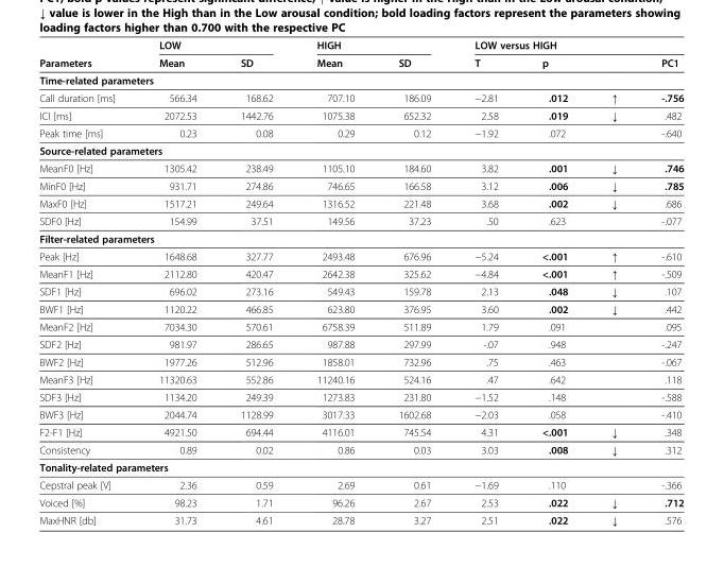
<table><thead><tr><td rowspan="2">Parameters</td><td colspan="2">LOW</td><td colspan="2">HIGH</td><td colspan="4">LOW versus HIGH</td></tr><tr><td>Mean</td><td>SD</td><td>Mean</td><td>SD</td><td>T</td><td>p</td><td></td><td>PC1</td></tr></thead><tbody><tr><td colspan="9">Time-related parameters</td></tr><tr><td>Call duration [ms]</td><td>566.34</td><td>168.62</td><td>707.10</td><td>186.09</td><td>−2.81</td><td>.012</td><td>↑</td><td>-.756</td></tr><tr><td>ICI [ms]</td><td>2072.53</td><td>1442.76</td><td>1075.38</td><td>652.32</td><td>2.58</td><td>.019</td><td>↓</td><td>.482</td></tr><tr><td>Peak time [ms]</td><td>0.23</td><td>0.08</td><td>0.29</td><td>0.12</td><td>−1.92</td><td>.072</td><td></td><td>-.640</td></tr><tr><td colspan="9">Source-related parameters</td></tr><tr><td>MeanF0 [Hz]</td><td>1305.42</td><td>238.49</td><td>1105.10</td><td>184.60</td><td>3.82</td><td>.001</td><td>↓</td><td>.746</td></tr><tr><td>MinF0 [Hz]</td><td>931.71</td><td>274.86</td><td>746.65</td><td>166.58</td><td>3.12</td><td>.006</td><td>↓</td><td>.785</td></tr><tr><td>MaxF0 [Hz]</td><td>1517.21</td><td>249.64</td><td>1316.52</td><td>221.48</td><td>3.68</td><td>.002</td><td>↓</td><td>.686</td></tr><tr><td>SDF0 [Hz]</td><td>154.99</td><td>37.51</td><td>149.56</td><td>37.23</td><td>.50</td><td>.623</td><td></td><td>-.077</td></tr><tr><td colspan="9">Filter-related parameters</td></tr><tr><td>Peak [Hz]</td><td>1648.68</td><td>327.77</td><td>2493.48</td><td>676.96</td><td>−5.24</td><td>&lt;.001</td><td>↑</td><td>-.610</td></tr><tr><td>MeanF1 [Hz]</td><td>2112.80</td><td>420.47</td><td>2642.38</td><td>325.62</td><td>−4.84</td><td>&lt;.001</td><td>↑</td><td>-.509</td></tr><tr><td>SDF1 [Hz]</td><td>696.02</td><td>273.16</td><td>549.43</td><td>159.78</td><td>2.13</td><td>.048</td><td>↓</td><td>.107</td></tr><tr><td>BWF1 [Hz]</td><td>1120.22</td><td>466.85</td><td>623.80</td><td>376.95</td><td>3.60</td><td>.002</td><td>↓</td><td>.442</td></tr><tr><td>MeanF2 [Hz]</td><td>7034.30</td><td>570.61</td><td>6758.39</td><td>511.89</td><td>1.79</td><td>.091</td><td></td><td>.095</td></tr><tr><td>SDF2 [Hz]</td><td>981.97</td><td>286.65</td><td>987.88</td><td>297.99</td><td>-.07</td><td>.948</td><td></td><td>-.247</td></tr><tr><td>BWF2 [Hz]</td><td>1977.26</td><td>512.96</td><td>1858.01</td><td>732.96</td><td>.75</td><td>.463</td><td></td><td>-.067</td></tr><tr><td>MeanF3 [Hz]</td><td>11320.63</td><td>552.86</td><td>11240.16</td><td>524.16</td><td>.47</td><td>.642</td><td></td><td>.118</td></tr><tr><td>SDF3 [Hz]</td><td>1134.20</td><td>249.39</td><td>1273.83</td><td>231.80</td><td>−1.52</td><td>.148</td><td></td><td>-.588</td></tr><tr><td>BWF3 [Hz]</td><td>2044.74</td><td>1128.99</td><td>3017.33</td><td>1602.68</td><td>−2.03</td><td>.058</td><td></td><td>-.410</td></tr><tr><td>F2-F1 [Hz]</td><td>4921.50</td><td>694.44</td><td>4116.01</td><td>745.54</td><td>4.31</td><td>&lt;.001</td><td>↓</td><td>.348</td></tr><tr><td>Consistency</td><td>0.89</td><td>0.02</td><td>0.86</td><td>0.03</td><td>3.03</td><td>.008</td><td>↓</td><td>.312</td></tr><tr><td colspan="9">Tonality-related parameters</td></tr><tr><td>Cepstral peak [V]</td><td>2.36</td><td>0.59</td><td>2.69</td><td>0.61</td><td>−1.69</td><td>.110</td><td></td><td>-.366</td></tr><tr><td>Voiced [%]</td><td>98.23</td><td>1.71</td><td>96.26</td><td>2.67</td><td>2.53</td><td>.022</td><td>↓</td><td>.712</td></tr><tr><td>MaxHNR [db]</td><td>31.73</td><td>4.61</td><td>28.78</td><td>3.27</td><td>2.51</td><td>.022</td><td>↓</td><td>.576</td></tr></tbody></table>